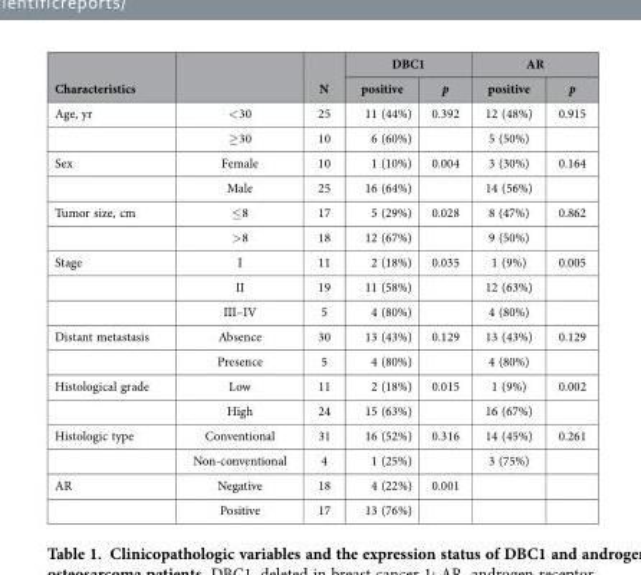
<table><tbody><tr><td rowspan="2">Characteristics</td><td rowspan="2"></td><td rowspan="2">N</td><td colspan="2">DBC1</td><td colspan="2">AR</td></tr><tr><td>positive</td><td>p</td><td>positive</td><td>p</td></tr><tr><td rowspan="2">Age, yr</td><td>&lt; 30</td><td>25</td><td>11 (44%)</td><td>0.392</td><td>12 (48%)</td><td>0.915</td></tr><tr><td>≥ 30</td><td>10</td><td>6 (60%)</td><td></td><td>5 (50%)</td><td></td></tr><tr><td rowspan="2">Sex</td><td>Female</td><td>10</td><td>1 (10%)</td><td>0.004</td><td>3 (30%)</td><td>0.164</td></tr><tr><td>Male</td><td>25</td><td>16 (64%)</td><td></td><td>14 (56%)</td><td></td></tr><tr><td rowspan="2">Tumor size, cm</td><td>≤ 8</td><td>17</td><td>5 (29%)</td><td>0.028</td><td>8 (47%)</td><td>0.862</td></tr><tr><td>&gt; 8</td><td>18</td><td>12 (67%)</td><td></td><td>9 (50%)</td><td></td></tr><tr><td rowspan="3">Stage</td><td>I</td><td>11</td><td>2 (18%)</td><td>0.035</td><td>1 (9%)</td><td>0.005</td></tr><tr><td>II</td><td>19</td><td>11 (58%)</td><td></td><td>12 (63%)</td><td></td></tr><tr><td>III–IV</td><td>5</td><td>4 (80%)</td><td></td><td>4 (80%)</td><td></td></tr><tr><td rowspan="2">Distant metastasis</td><td>Absence</td><td>30</td><td>13 (43%)</td><td>0.129</td><td>13 (43%)</td><td>0.129</td></tr><tr><td>Presence</td><td>5</td><td>4 (80%)</td><td></td><td>4 (80%)</td><td></td></tr><tr><td rowspan="2">Histological grade</td><td>Low</td><td>11</td><td>2 (18%)</td><td>0.015</td><td>1 (9%)</td><td>0.002</td></tr><tr><td>High</td><td>24</td><td>15 (63%)</td><td></td><td>16 (67%)</td><td></td></tr><tr><td rowspan="2">Histologic type</td><td>Conventional</td><td>31</td><td>16 (52%)</td><td>0.316</td><td>14 (45%)</td><td>0.261</td></tr><tr><td>Non-conventional</td><td>4</td><td>1 (25%)</td><td></td><td>3 (75%)</td><td></td></tr><tr><td rowspan="2">AR</td><td>Negative</td><td>18</td><td>4 (22%)</td><td>0.001</td><td></td><td></td></tr><tr><td>Positive</td><td>17</td><td>13 (76%)</td><td></td><td></td><td></td></tr></tbody></table>